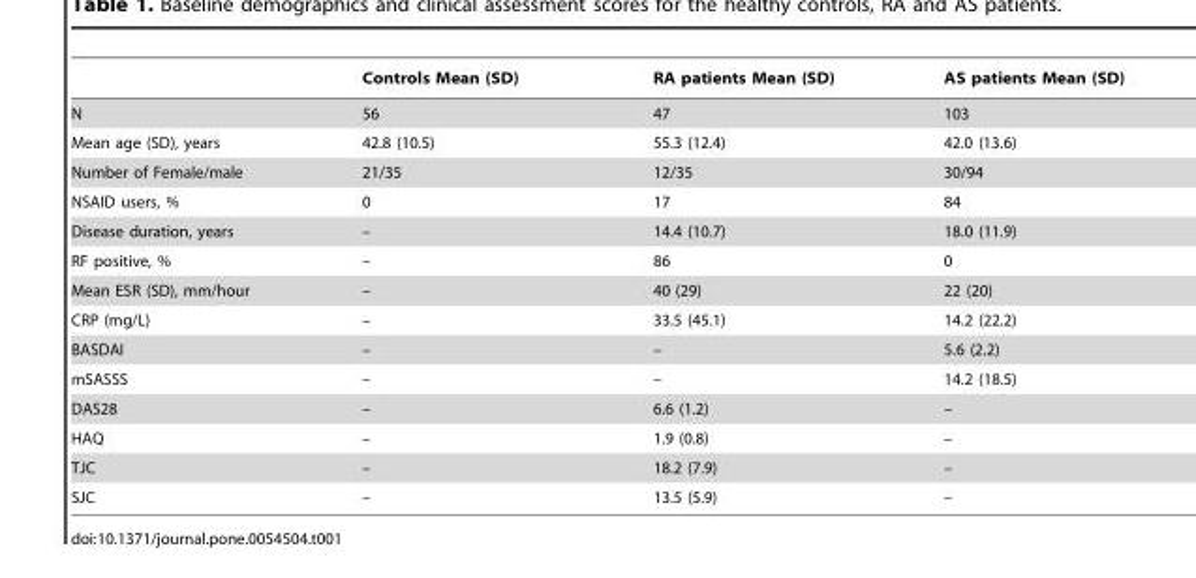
<table><thead><tr><td></td><td>Controls Mean (SD)</td><td>RA patients Mean (SD)</td><td>AS patients Mean (SD)</td></tr></thead><tbody><tr><td>N</td><td>56</td><td>47</td><td>103</td></tr><tr><td>Mean age (SD), years</td><td>42.8 (10.5)</td><td>55.3 (12.4)</td><td>42.0 (13.6)</td></tr><tr><td>Number of Female/male</td><td>21/35</td><td>12/35</td><td>30/94</td></tr><tr><td>NSAID users, %</td><td>0</td><td>17</td><td>84</td></tr><tr><td>Disease duration, years</td><td>–</td><td>14.4 (10.7)</td><td>18.0 (11.9)</td></tr><tr><td>RF positive, %</td><td>–</td><td>86</td><td>0</td></tr><tr><td>Mean ESR (SD), mm/hour</td><td>–</td><td>40 (29)</td><td>22 (20)</td></tr><tr><td>CRP (mg/L)</td><td>–</td><td>33.5 (45.1)</td><td>14.2 (22.2)</td></tr><tr><td>BASDAI</td><td>–</td><td>–</td><td>5.6 (2.2)</td></tr><tr><td>mSASSS</td><td>–</td><td>–</td><td>14.2 (18.5)</td></tr><tr><td>DAS28</td><td>–</td><td>6.6 (1.2)</td><td>–</td></tr><tr><td>HAQ</td><td>–</td><td>1.9 (0.8)</td><td>–</td></tr><tr><td>TJC</td><td>–</td><td>18.2 (7.9)</td><td>–</td></tr><tr><td>SJC</td><td>–</td><td>13.5 (5.9)</td><td>–</td></tr></tbody></table>